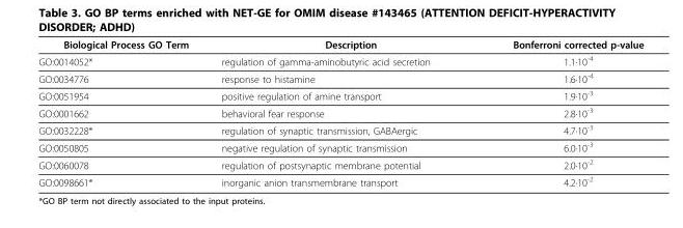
<table><thead><tr><td>Biological Process GO Term</td><td>Description</td><td>Bonferroni corrected p-value</td></tr></thead><tbody><tr><td>GO:0014052*</td><td>regulation of gamma-aminobutyric acid secretion</td><td>1.1·10<sup>-4</sup></td></tr><tr><td>GO:0034776</td><td>response to histamine</td><td>1.6·10<sup>-4</sup></td></tr><tr><td>GO:0051954</td><td>positive regulation of amine transport</td><td>1.9·10<sup>-3</sup></td></tr><tr><td>GO:0001662</td><td>behavioral fear response</td><td>2.8·10<sup>-3</sup></td></tr><tr><td>GO:0032228*</td><td>regulation of synaptic transmission, GABAergic</td><td>4.7·10<sup>-3</sup></td></tr><tr><td>GO:0050805</td><td>negative regulation of synaptic transmission</td><td>6.0·10<sup>-3</sup></td></tr><tr><td>GO:0060078</td><td>regulation of postsynaptic membrane potential</td><td>2.0·10<sup>-2</sup></td></tr><tr><td>GO:0098661*</td><td>inorganic anion transmembrane transport</td><td>4.2·10<sup>-2</sup></td></tr></tbody></table>